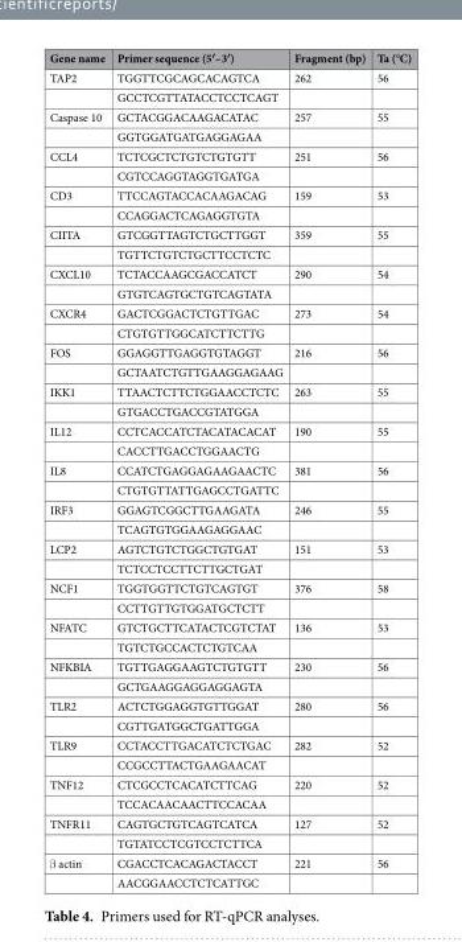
<table><thead><tr><td>Gene name</td><td>Primer sequence (5′–3′)</td><td>Fragment (bp)</td><td>Ta (°C)</td></tr></thead><tbody><tr><td rowspan="2">TAP2</td><td>TGGTTCGCAGCACAGTCA</td><td>262</td><td>56</td></tr><tr><td>GCCTCGTTATACCTCCTCAGT</td><td></td><td></td></tr><tr><td rowspan="2">Caspase 10</td><td>GCTACGGACAAGACATAC</td><td>257</td><td>55</td></tr><tr><td>GGTGGATGATGAGGAGAA</td><td></td><td></td></tr><tr><td rowspan="2">CCL4</td><td>TCTCGCTCTGTCTGTGTT</td><td>251</td><td>56</td></tr><tr><td>CGTCCAGGTAGGTGATGA</td><td></td><td></td></tr><tr><td rowspan="2">CD3</td><td>TTCCAGTACCACAAGACAG</td><td>159</td><td>53</td></tr><tr><td>CCAGGACTCAGAGGTGTA</td><td></td><td></td></tr><tr><td rowspan="2">CIITA</td><td>GTCGGTTAGTCTGCTTGGT</td><td>359</td><td>55</td></tr><tr><td>TGTTCTGTCTGCTTCCTCTC</td><td></td><td></td></tr><tr><td rowspan="2">CXCL10</td><td>TCTACCAAGCGACCATCT</td><td>290</td><td>54</td></tr><tr><td>GTGTCAGTGCTGTCAGTATA</td><td></td><td></td></tr><tr><td rowspan="2">CXCR4</td><td>GACTCGGACTCTGTTGAC</td><td>273</td><td>54</td></tr><tr><td>CTGTGTTGGCATCTTCTTG</td><td></td><td></td></tr><tr><td rowspan="2">FOS</td><td>GGAGGTTGAGGTGTAGGT</td><td>216</td><td>56</td></tr><tr><td>GCTAATCTGTTGAAGGAGAAG</td><td></td><td></td></tr><tr><td rowspan="2">IKK1</td><td>TTAACTCTTCTGGAACCTCTC</td><td>263</td><td>55</td></tr><tr><td>GTGACCTGACCGTATGGA</td><td></td><td></td></tr><tr><td rowspan="2">IL12</td><td>CCTCACCATCTACATACACAT</td><td>190</td><td>55</td></tr><tr><td>CACCTTGACCTGGAACTG</td><td></td><td></td></tr><tr><td rowspan="2">IL8</td><td>CCATCTGAGGAGAAGAACTC</td><td>381</td><td>56</td></tr><tr><td>CTGTGTTATTGAGCCTGATTC</td><td></td><td></td></tr><tr><td rowspan="2">IRF3</td><td>GGAGTCGGCTTGAAGATA</td><td>246</td><td>55</td></tr><tr><td>TCAGTGTGGAAGAGGAAC</td><td></td><td></td></tr><tr><td rowspan="2">LCP2</td><td>AGTCTGTCTGGCTGTGAT</td><td>151</td><td>53</td></tr><tr><td>TCTCCTCCTTCTTGCTGAT</td><td></td><td></td></tr><tr><td rowspan="2">NCF1</td><td>TGGTGGTTCTGTCAGTGT</td><td>376</td><td>58</td></tr><tr><td>CCTTGTTGTGGATGCTCTT</td><td></td><td></td></tr><tr><td rowspan="2">NFATC</td><td>GTCTGCTTCATACTCGTCTAT</td><td>136</td><td>53</td></tr><tr><td>TGTCTGCCACTCTGTCAA</td><td></td><td></td></tr><tr><td rowspan="2">NFKBIA</td><td>TGTTGAGGAAGTCTGTGTT</td><td>230</td><td>56</td></tr><tr><td>GCTGAAGGAGGAGGAGTA</td><td></td><td></td></tr><tr><td rowspan="2">TLR2</td><td>ACTCTGGAGGTGTTGGAT</td><td>280</td><td>56</td></tr><tr><td>CGTTGATGGCTGATTGGA</td><td></td><td></td></tr><tr><td rowspan="2">TLR9</td><td>CCTACCTTGACATCTCTGAC</td><td>282</td><td>52</td></tr><tr><td>CCGCCTTACTGAAGAACAT</td><td></td><td></td></tr><tr><td rowspan="2">TNF12</td><td>CTCGCCTCACATCTTCAG</td><td>220</td><td>52</td></tr><tr><td>TCCACAACAACTTCCACAA</td><td></td><td></td></tr><tr><td rowspan="2">TNFR11</td><td>CAGTGCTGTCAGTCATCA</td><td>127</td><td>52</td></tr><tr><td>TGTATCCTCGTCCTCTTCA</td><td></td><td></td></tr><tr><td rowspan="2">β actin</td><td>CGACCTCACAGACTACCT</td><td>221</td><td>56</td></tr><tr><td>AACGGAACCTCTCATTGC</td><td></td><td></td></tr></tbody></table>